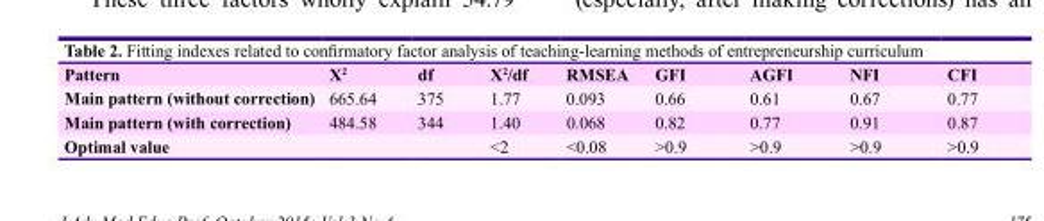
<table><thead><tr><td>Pattern</td><td>X2</td><td>df</td><td>X2/df</td><td>RMSEA</td><td>GFI</td><td>AGFI</td><td>NFI</td><td>CFI</td></tr></thead><tbody><tr><td>Main pattern (without correction)</td><td>665.64</td><td>375</td><td>1.77</td><td>0.093</td><td>0.66</td><td>0.61</td><td>0.67</td><td>0.77</td></tr><tr><td>Main pattern (with correction)</td><td>484.58</td><td>344</td><td>1.40</td><td>0.068</td><td>0.82</td><td>0.77</td><td>0.91</td><td>0.87</td></tr><tr><td>Optimal value</td><td colspan="2"></td><td>&lt;2</td><td>&lt;0.08</td><td>&gt;0.9</td><td>&gt;0.9</td><td>&gt;0.9</td><td>&gt;0.9</td></tr></tbody></table>